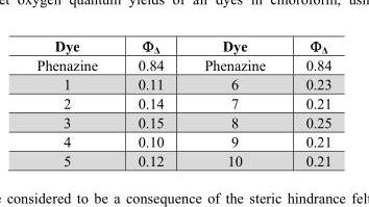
<table><thead><tr><td>Dye</td><td>Φ<sub>Δ</sub></td><td>Dye</td><td>Φ<sub>Δ</sub></td></tr></thead><tbody><tr><td>Phenazine</td><td>0.84</td><td>Phenazine</td><td>0.84</td></tr><tr><td>1</td><td>0.11</td><td>6</td><td>0.23</td></tr><tr><td>2</td><td>0.14</td><td>7</td><td>0.21</td></tr><tr><td>3</td><td>0.15</td><td>8</td><td>0.25</td></tr><tr><td>4</td><td>0.10</td><td>9</td><td>0.21</td></tr><tr><td>5</td><td>0.12</td><td>10</td><td>0.21</td></tr></tbody></table>